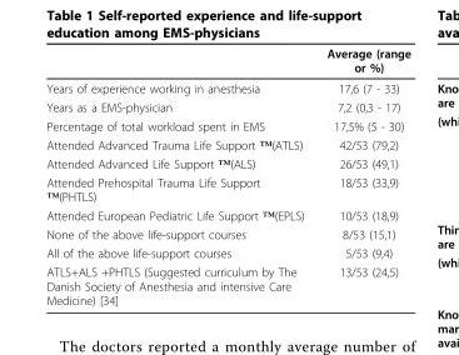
<table><thead><tr><td></td><td>Average (range or %)</td></tr></thead><tbody><tr><td>Years of experience working in anesthesia</td><td>17,6 (7 - 33)</td></tr><tr><td>Years as a EMS-physician</td><td>7,2 (0,3 - 17)</td></tr><tr><td>Percentage of total workload spent in EMS</td><td>17,5% (5 - 30)</td></tr><tr><td>Attended Advanced Trauma Life Support ™(ATLS)</td><td>42/53 (79,2)</td></tr><tr><td>Attended Advanced Life Support ™(ALS)</td><td>26/53 (49,1)</td></tr><tr><td>Attended Prehospital Trauma Life Support ™(PHTLS)</td><td>18/53 (33,9)</td></tr><tr><td>Attended European Pediatric Life Support ™(EPLS)</td><td>10/53 (18,9)</td></tr><tr><td>None of the above life-support courses</td><td>8/53 (15,1)</td></tr><tr><td>All of the above life-support courses</td><td>5/53 (9,4)</td></tr><tr><td>ATLS+ALS +PHTLS (Suggested curriculum by The Danish Society of Anesthesia and intensive Care Medicine) [34]</td><td>13/53 (24,5)</td></tr></tbody></table>